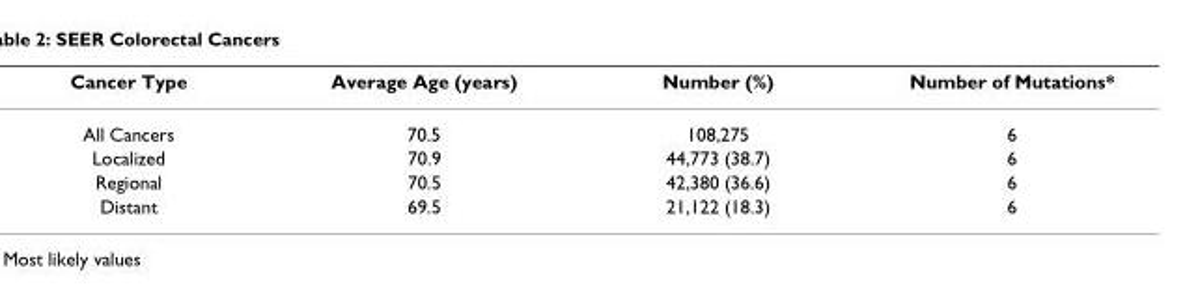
<table><thead><tr><td>Cancer Type</td><td>Average Age (years)</td><td>Number (%)</td><td>Number of Mutations*</td></tr></thead><tbody><tr><td>All Cancers</td><td>70.5</td><td>108,275</td><td>6</td></tr><tr><td>Localized</td><td>70.9</td><td>44,773 (38.7)</td><td>6</td></tr><tr><td>Regional</td><td>70.5</td><td>42,380 (36.6)</td><td>6</td></tr><tr><td>Distant</td><td>69.5</td><td>21,122 (18.3)</td><td>6</td></tr></tbody></table>